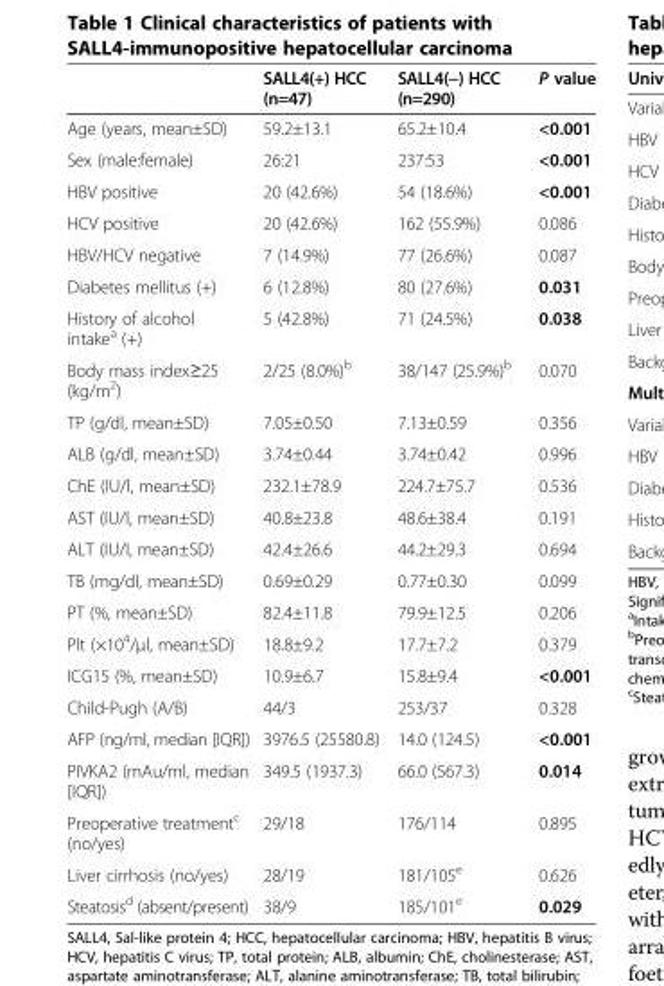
<table><thead><tr><td></td><td>SALL4(+) HCC (n=47)</td><td>SALL4(−) HCC (n=290)</td><td>P value</td></tr></thead><tbody><tr><td>Age (years, mean±SD)</td><td>59.2±13.1</td><td>65.2±10.4</td><td>&lt;0.001</td></tr><tr><td>Sex (male:female)</td><td>26:21</td><td>237:53</td><td>&lt;0.001</td></tr><tr><td>HBV positive</td><td>20 (42.6%)</td><td>54 (18.6%)</td><td>&lt;0.001</td></tr><tr><td>HCV positive</td><td>20 (42.6%)</td><td>162 (55.9%)</td><td>0.086</td></tr><tr><td>HBV/HCV negative</td><td>7 (14.9%)</td><td>77 (26.6%)</td><td>0.087</td></tr><tr><td>Diabetes mellitus (+)</td><td>6 (12.8%)</td><td>80 (27.6%)</td><td>0.031</td></tr><tr><td>History of alcohol intake<sup>a</sup> (+)</td><td>5 (42.8%)</td><td>71 (24.5%)</td><td>0.038</td></tr><tr><td>Body mass index≥25 (kg/m<sup>2</sup>)</td><td>2/25 (8.0%)<sup>b</sup></td><td>38/147 (25.9%)<sup>b</sup></td><td>0.070</td></tr><tr><td>TP (g/dl, mean±SD)</td><td>7.05±0.50</td><td>7.13±0.59</td><td>0.356</td></tr><tr><td>ALB (g/dl, mean±SD)</td><td>3.74±0.44</td><td>3.74±0.42</td><td>0.996</td></tr><tr><td>ChE (IU/l, mean±SD)</td><td>232.1±78.9</td><td>224.7±75.7</td><td>0.536</td></tr><tr><td>AST (IU/l, mean±SD)</td><td>40.8±23.8</td><td>48.6±38.4</td><td>0.191</td></tr><tr><td>ALT (IU/l, mean±SD)</td><td>42.4±26.6</td><td>44.2±29.3</td><td>0.694</td></tr><tr><td>TB (mg/dl, mean±SD)</td><td>0.69±0.29</td><td>0.77±0.30</td><td>0.099</td></tr><tr><td>PT (%, mean±SD)</td><td>82.4±11.8</td><td>79.9±12.5</td><td>0.206</td></tr><tr><td>Plt (×10<sup>4</sup>/μl, mean±SD)</td><td>18.8±9.2</td><td>17.7±7.2</td><td>0.379</td></tr><tr><td>ICG15 (%, mean±SD)</td><td>10.9±6.7</td><td>15.8±9.4</td><td>&lt;0.001</td></tr><tr><td>Child-Pugh (A/B)</td><td>44/3</td><td>253/37</td><td>0.328</td></tr><tr><td>AFP (ng/ml, median [IQR])</td><td>3976.5 (25580.8)</td><td>14.0 (124.5)</td><td>&lt;0.001</td></tr><tr><td>PIVKA2 (mAu/ml, median [IQR])</td><td>349.5 (1937.3)</td><td>66.0 (567.3)</td><td>0.014</td></tr><tr><td>Preoperative treatment<sup>c</sup> (no/yes)</td><td>29/18</td><td>176/114</td><td>0.895</td></tr><tr><td>Liver cirrhosis (no/yes)</td><td>28/19</td><td>181/105<sup>e</sup></td><td>0.626</td></tr><tr><td>Steatosis<sup>d</sup> (absent/present)</td><td>38/9</td><td>185/101<sup>e</sup></td><td>0.029</td></tr></tbody></table>